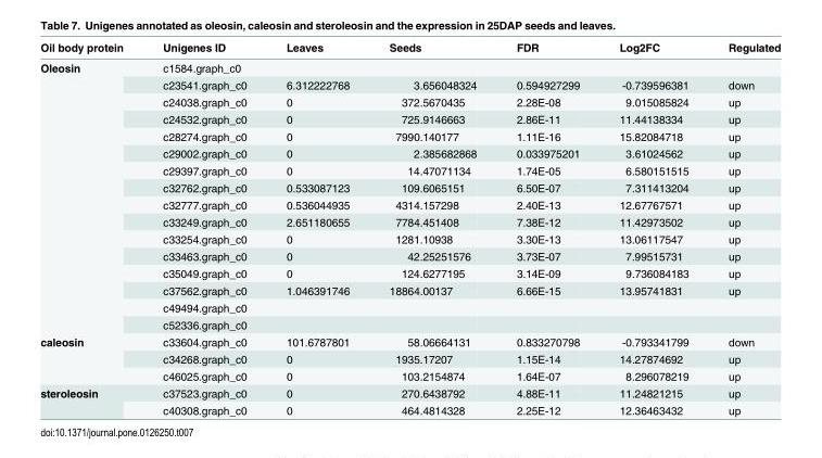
<table><thead><tr><td>Oil body protein</td><td>Unigenes ID</td><td>Leaves</td><td>Seeds</td><td>FDR</td><td>Log2FC</td><td>Regulated</td></tr></thead><tbody><tr><td rowspan="16">Oleosin</td><td>c1584.graph_c0</td><td></td><td></td><td></td><td></td><td></td></tr><tr><td>c23541.graph_c0</td><td>6.312222768</td><td>3.656048324</td><td>0.594927299</td><td>-0.739596381</td><td>down</td></tr><tr><td>c24038.graph_c0</td><td>0</td><td>372.5670435</td><td>2.28E-08</td><td>9.015085824</td><td>up</td></tr><tr><td>c24532.graph_c0</td><td>0</td><td>725.9146663</td><td>2.86E-11</td><td>11.44138334</td><td>up</td></tr><tr><td>c28274.graph_c0</td><td>0</td><td>7990.140177</td><td>1.11E-16</td><td>15.82084718</td><td>up</td></tr><tr><td>c29002.graph_c0</td><td>0</td><td>2.385682868</td><td>0.033975201</td><td>3.61024562</td><td>up</td></tr><tr><td>c29397.graph_c0</td><td>0</td><td>14.47071134</td><td>1.74E-05</td><td>6.580151515</td><td>up</td></tr><tr><td>c32762.graph_c0</td><td>0.533087123</td><td>109.6065151</td><td>6.50E-07</td><td>7.311413204</td><td>up</td></tr><tr><td>c32777.graph_c0</td><td>0.536044935</td><td>4314.157298</td><td>2.40E-13</td><td>12.67767571</td><td>up</td></tr><tr><td>c33249.graph_c0</td><td>2.651180655</td><td>7784.451408</td><td>7.38E-12</td><td>11.42973502</td><td>up</td></tr><tr><td>c33254.graph_c0</td><td>0</td><td>1281.10938</td><td>3.30E-13</td><td>13.06117547</td><td>up</td></tr><tr><td>c33463.graph_c0</td><td>0</td><td>42.25251576</td><td>3.73E-07</td><td>7.99515731</td><td>up</td></tr><tr><td>c35049.graph_c0</td><td>0</td><td>124.6277195</td><td>3.14E-09</td><td>9.736084183</td><td>up</td></tr><tr><td>c37562.graph_c0</td><td>1.046391746</td><td>18864.00137</td><td>6.66E-15</td><td>13.95741831</td><td>up</td></tr><tr><td>c49494.graph_c0</td><td></td><td></td><td></td><td></td><td></td></tr><tr><td>c52336.graph_c0</td><td></td><td></td><td></td><td></td><td></td></tr><tr><td rowspan="3">caleosin</td><td>c33604.graph_c0</td><td>101.6787801</td><td>58.06664131</td><td>0.833270798</td><td>-0.793341799</td><td>down</td></tr><tr><td>c34268.graph_c0</td><td>0</td><td>1935.17207</td><td>1.15E-14</td><td>14.27874692</td><td>up</td></tr><tr><td>c46025.graph_c0</td><td>0</td><td>103.2154874</td><td>1.64E-07</td><td>8.296078219</td><td>up</td></tr><tr><td rowspan="2">steroleosin</td><td>c37523.graph_c0</td><td>0</td><td>270.6438792</td><td>4.88E-11</td><td>11.24821215</td><td>up</td></tr><tr><td>c40308.graph_c0</td><td>0</td><td>464.4814328</td><td>2.25E-12</td><td>12.36463432</td><td>up</td></tr></tbody></table>